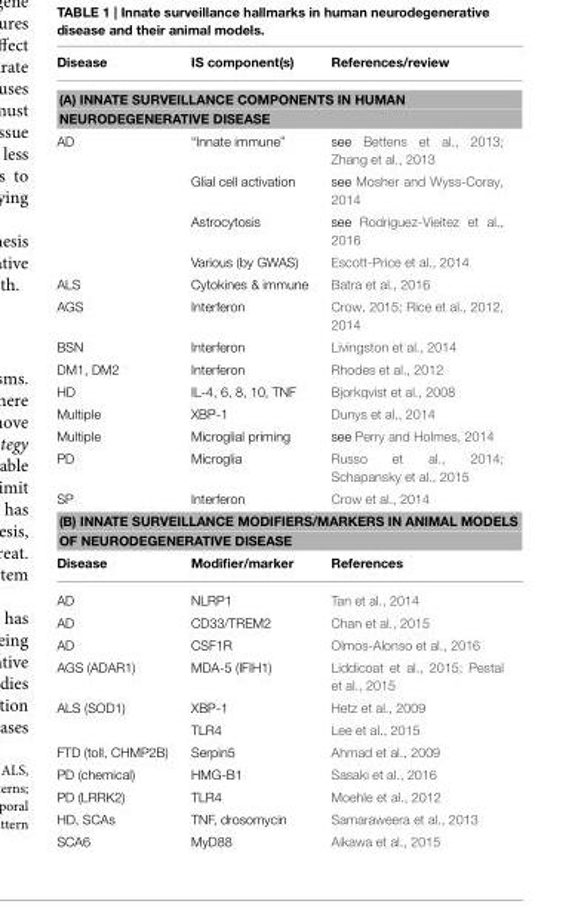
<table><thead><tr><td>Disease</td><td>IS component(s)</td><td>References/review</td></tr></thead><tbody><tr><td colspan="3">(A) INNATE SURVEILLANCE COMPONENTS IN HUMAN NEURODEGENERATIVE DISEASE</td></tr><tr><td rowspan="4">AD</td><td>“Innate immune”</td><td>see Bettens et al., 2013; Zhang et al., 2013</td></tr><tr><td>Glial cell activation</td><td>see Mosher and Wyss-Coray, 2014</td></tr><tr><td>Astrocytosis</td><td>see Rodriguez-Vieitez et al., 2016</td></tr><tr><td>Various (by GWAS)</td><td>Escott-Price et al., 2014</td></tr><tr><td>ALS</td><td>Cytokines &amp; immune</td><td>Batra et al., 2016</td></tr><tr><td>AGS</td><td>Interferon</td><td>Crow, 2015; Rice et al., 2012, 2014</td></tr><tr><td>BSN</td><td>Interferon</td><td>Livingston et al., 2014</td></tr><tr><td>DM1, DM2</td><td>Interferon</td><td>Rhodes et al., 2012</td></tr><tr><td>HD</td><td>IL-4, 6, 8, 10, TNF</td><td>Bjorkqvist et al., 2008</td></tr><tr><td>Multiple</td><td>XBP-1</td><td>Dunys et al., 2014</td></tr><tr><td>Multiple</td><td>Microglial priming</td><td>see Perry and Holmes, 2014</td></tr><tr><td>PD</td><td>Microglia</td><td>Russo et al., 2014; Schapansky et al., 2015</td></tr><tr><td>SP</td><td>Interferon</td><td>Crow et al., 2014</td></tr><tr><td colspan="3">(B) INNATE SURVEILLANCE MODIFIERS/MARKERS IN ANIMAL MODELS OF NEURODEGENERATIVE DISEASE</td></tr><tr><td>Disease</td><td>Modifier/marker</td><td>References</td></tr><tr><td>AD</td><td>NLRP1</td><td>Tan et al., 2014</td></tr><tr><td>AD</td><td>CD33/TREM2</td><td>Chan et al., 2015</td></tr><tr><td>AD</td><td>CSF1R</td><td>Olmos-Alonso et al., 2016</td></tr><tr><td>AGS (ADAR1)</td><td>MDA-5 (IFIH1)</td><td>Liddicoat et al., 2015; Pestal et al., 2015</td></tr><tr><td rowspan="2">ALS (SOD1)</td><td>XBP-1</td><td>Hetz et al., 2009</td></tr><tr><td>TLR4</td><td>Lee et al., 2015</td></tr><tr><td>FTD (toll, CHMP2B)</td><td>Serpin5</td><td>Ahmad et al., 2009</td></tr><tr><td>PD (chemical)</td><td>HMG-B1</td><td>Sasaki et al., 2016</td></tr><tr><td>PD (LRRK2)</td><td>TLR4</td><td>Moehle et al., 2012</td></tr><tr><td>HD, SCAs</td><td>TNF, drosomycin</td><td>Samaraweera et al., 2013</td></tr><tr><td>SCA6</td><td>MyD88</td><td>Aikawa et al., 2015</td></tr></tbody></table>